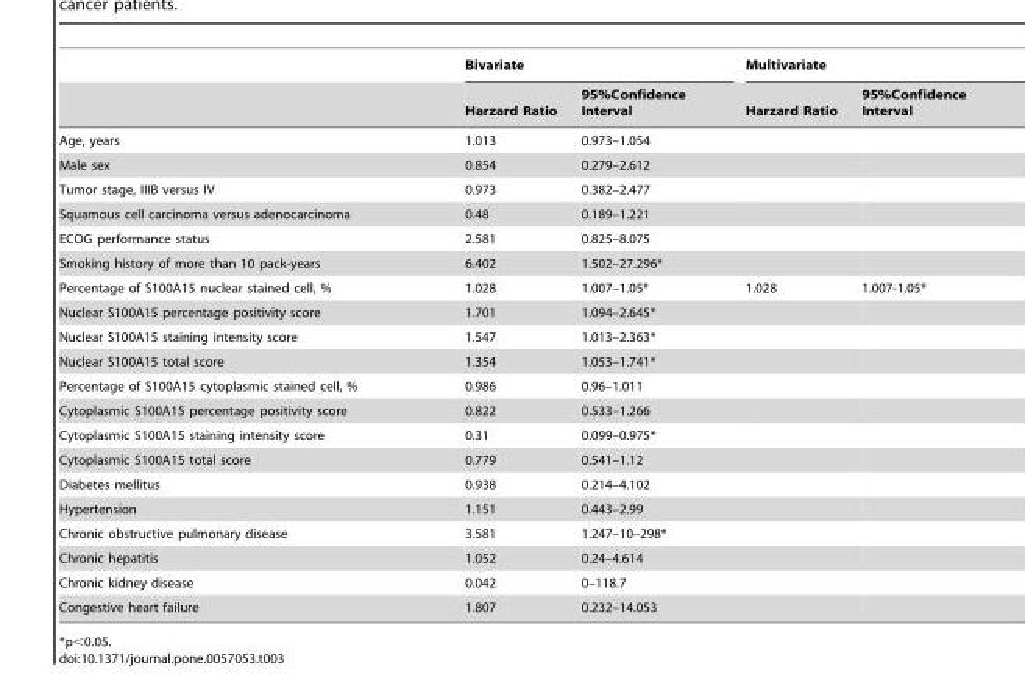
<table><thead><tr><td rowspan="2"></td><td colspan="2">Bivariate</td><td colspan="2">Multivariate</td></tr><tr><td>Harzard Ratio</td><td>95%Confidence Interval</td><td>Harzard Ratio</td><td>95%Confidence Interval</td></tr></thead><tbody><tr><td>Age, years</td><td>1.013</td><td>0.973–1.054</td><td></td><td></td></tr><tr><td>Male sex</td><td>0.854</td><td>0.279–2.612</td><td></td><td></td></tr><tr><td>Tumor stage, IIIB versus IV</td><td>0.973</td><td>0.382–2.477</td><td></td><td></td></tr><tr><td>Squamous cell carcinoma versus adenocarcinoma</td><td>0.48</td><td>0.189–1.221</td><td></td><td></td></tr><tr><td>ECOG performance status</td><td>2.581</td><td>0.825–8.075</td><td></td><td></td></tr><tr><td>Smoking history of more than 10 pack-years</td><td>6.402</td><td>1.502–27.296*</td><td></td><td></td></tr><tr><td>Percentage of S100A15 nuclear stained cell, %</td><td>1.028</td><td>1.007–1.05*</td><td>1.028</td><td>1.007-1.05*</td></tr><tr><td>Nuclear S100A15 percentage positivity score</td><td>1.701</td><td>1.094–2.645*</td><td></td><td></td></tr><tr><td>Nuclear S100A15 staining intensity score</td><td>1.547</td><td>1.013–2.363*</td><td></td><td></td></tr><tr><td>Nuclear S100A15 total score</td><td>1.354</td><td>1.053–1.741*</td><td></td><td></td></tr><tr><td>Percentage of S100A15 cytoplasmic stained cell, %</td><td>0.986</td><td>0.96–1.011</td><td></td><td></td></tr><tr><td>Cytoplasmic S100A15 percentage positivity score</td><td>0.822</td><td>0.533–1.266</td><td></td><td></td></tr><tr><td>Cytoplasmic S100A15 staining intensity score</td><td>0.31</td><td>0.099–0.975*</td><td></td><td></td></tr><tr><td>Cytoplasmic S100A15 total score</td><td>0.779</td><td>0.541–1.12</td><td></td><td></td></tr><tr><td>Diabetes mellitus</td><td>0.938</td><td>0.214–4.102</td><td></td><td></td></tr><tr><td>Hypertension</td><td>1.151</td><td>0.443–2.99</td><td></td><td></td></tr><tr><td>Chronic obstructive pulmonary disease</td><td>3.581</td><td>1.247–10–298*</td><td></td><td></td></tr><tr><td>Chronic hepatitis</td><td>1.052</td><td>0.24–4.614</td><td></td><td></td></tr><tr><td>Chronic kidney disease</td><td>0.042</td><td>0–118.7</td><td></td><td></td></tr><tr><td>Congestive heart failure</td><td>1.807</td><td>0.232–14.053</td><td></td><td></td></tr></tbody></table>